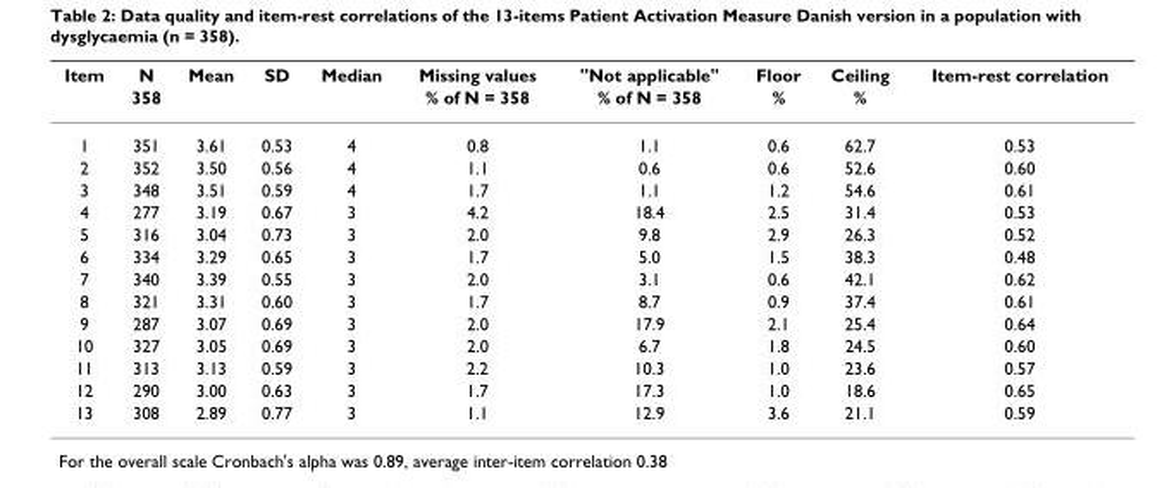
<table><thead><tr><td rowspan="2">Item</td><td rowspan="2">N 358</td><td rowspan="2">Mean</td><td rowspan="2">SD</td><td rowspan="2">Median</td><td rowspan="2">Missing values % of N = 358</td><td rowspan="2">&quot;Not applicable&quot; % of N = 358</td><td rowspan="2">Floor %</td><td rowspan="2">Ceiling %</td><td rowspan="2">Item-rest correlation</td></tr><tr></tr></thead><tbody><tr><td>1</td><td>351</td><td>3.61</td><td>0.53</td><td>4</td><td>0.8</td><td>1.1</td><td>0.6</td><td>62.7</td><td>0.53</td></tr><tr><td>2</td><td>352</td><td>3.50</td><td>0.56</td><td>4</td><td>1.1</td><td>0.6</td><td>0.6</td><td>52.6</td><td>0.60</td></tr><tr><td>3</td><td>348</td><td>3.51</td><td>0.59</td><td>4</td><td>1.7</td><td>1.1</td><td>1.2</td><td>54.6</td><td>0.61</td></tr><tr><td>4</td><td>277</td><td>3.19</td><td>0.67</td><td>3</td><td>4.2</td><td>18.4</td><td>2.5</td><td>31.4</td><td>0.53</td></tr><tr><td>5</td><td>316</td><td>3.04</td><td>0.73</td><td>3</td><td>2.0</td><td>9.8</td><td>2.9</td><td>26.3</td><td>0.52</td></tr><tr><td>6</td><td>334</td><td>3.29</td><td>0.65</td><td>3</td><td>1.7</td><td>5.0</td><td>1.5</td><td>38.3</td><td>0.48</td></tr><tr><td>7</td><td>340</td><td>3.39</td><td>0.55</td><td>3</td><td>2.0</td><td>3.1</td><td>0.6</td><td>42.1</td><td>0.62</td></tr><tr><td>8</td><td>321</td><td>3.31</td><td>0.60</td><td>3</td><td>1.7</td><td>8.7</td><td>0.9</td><td>37.4</td><td>0.61</td></tr><tr><td>9</td><td>287</td><td>3.07</td><td>0.69</td><td>3</td><td>2.0</td><td>17.9</td><td>2.1</td><td>25.4</td><td>0.64</td></tr><tr><td>10</td><td>327</td><td>3.05</td><td>0.69</td><td>3</td><td>2.0</td><td>6.7</td><td>1.8</td><td>24.5</td><td>0.60</td></tr><tr><td>11</td><td>313</td><td>3.13</td><td>0.59</td><td>3</td><td>2.2</td><td>10.3</td><td>1.0</td><td>23.6</td><td>0.57</td></tr><tr><td>12</td><td>290</td><td>3.00</td><td>0.63</td><td>3</td><td>1.7</td><td>17.3</td><td>1.0</td><td>18.6</td><td>0.65</td></tr><tr><td>13</td><td>308</td><td>2.89</td><td>0.77</td><td>3</td><td>1.1</td><td>12.9</td><td>3.6</td><td>21.1</td><td>0.59</td></tr></tbody></table>